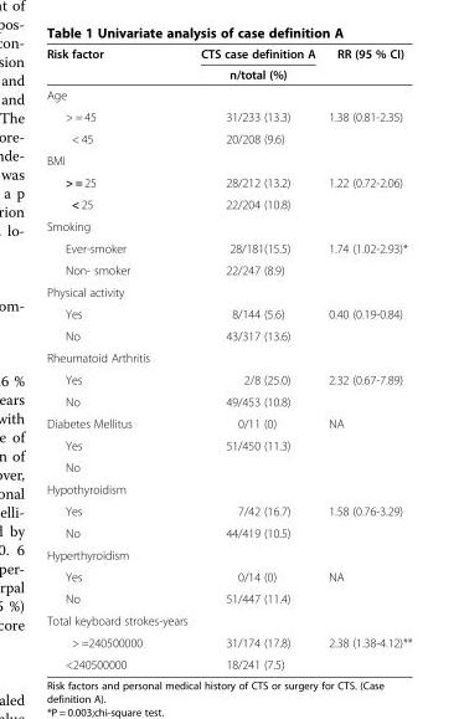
<table><thead><tr><td rowspan="2">Risk factor</td><td rowspan="2">CTS case definition A n/total (%)</td><td rowspan="2">RR (95 % CI)</td></tr><tr></tr></thead><tbody><tr><td colspan="3">Age</td></tr><tr><td>&gt; = 45</td><td>31/233 (13.3)</td><td>1.38 (0.81-2.35)</td></tr><tr><td>&lt; 45</td><td>20/208 (9.6)</td><td></td></tr><tr><td colspan="3">BMI</td></tr><tr><td>&gt; = 25</td><td>28/212 (13.2)</td><td>1.22 (0.72-2.06)</td></tr><tr><td>&lt; 25</td><td>22/204 (10.8)</td><td></td></tr><tr><td colspan="3">Smoking</td></tr><tr><td>Ever-smoker</td><td>28/181(15.5)</td><td>1.74 (1.02-2.93)*</td></tr><tr><td>Non- smoker</td><td>22/247 (8.9)</td><td></td></tr><tr><td colspan="3">Physical activity</td></tr><tr><td>Yes</td><td>8/144 (5.6)</td><td>0.40 (0.19-0.84)</td></tr><tr><td>No</td><td>43/317 (13.6)</td><td></td></tr><tr><td colspan="3">Rheumatoid Arthritis</td></tr><tr><td>Yes</td><td>2/8 (25.0)</td><td>2.32 (0.67-7.89)</td></tr><tr><td>No</td><td>49/453 (10.8)</td><td></td></tr><tr><td>Diabetes Mellitus</td><td>0/11 (0)</td><td>NA</td></tr><tr><td>Yes</td><td>51/450 (11.3)</td><td></td></tr><tr><td colspan="3">No</td></tr><tr><td colspan="3">Hypothyroidism</td></tr><tr><td>Yes</td><td>7/42 (16.7)</td><td>1.58 (0.76-3.29)</td></tr><tr><td>No</td><td>44/419 (10.5)</td><td></td></tr><tr><td colspan="3">Hyperthyroidism</td></tr><tr><td>Yes</td><td>0/14 (0)</td><td>NA</td></tr><tr><td>No</td><td>51/447 (11.4)</td><td></td></tr><tr><td colspan="3">Total keyboard strokes-years</td></tr><tr><td>&gt; =240500000</td><td>31/174 (17.8)</td><td>2.38 (1.38-4.12)**</td></tr><tr><td>&lt;240500000</td><td>18/241 (7.5)</td><td></td></tr></tbody></table>